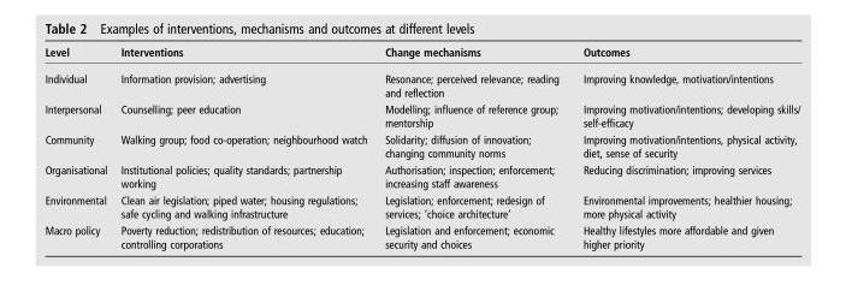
<table><thead><tr><td>Level</td><td>Interventions</td><td>Change mechanisms</td><td>Outcomes</td></tr></thead><tbody><tr><td>Individual</td><td>Information provision; advertising</td><td>Resonance; perceived relevance; reading and reflection</td><td>Improving knowledge, motivation/intentions</td></tr><tr><td>Interpersonal</td><td>Counselling; peer education</td><td>Modelling; influence of reference group; mentorship</td><td>Improving motivation/intentions; developing skills/ self-efficacy</td></tr><tr><td>Community</td><td>Walking group; food co-operation; neighbourhood watch</td><td>Solidarity; diffusion of innovation; changing community norms</td><td>Improving motivation/intentions, physical activity, diet, sense of security</td></tr><tr><td>Organisational</td><td>Institutional policies; quality standards; partnership working</td><td>Authorisation; inspection; enforcement; increasing staff awareness</td><td>Reducing discrimination; improving services</td></tr><tr><td>Environmental</td><td>Clean air legislation; piped water; housing regulations; safe cycling and walking infrastructure</td><td>Legislation; enforcement; redesign of services; ‘choice architecture’</td><td>Environmental improvements; healthier housing; more physical activity</td></tr><tr><td>Macro policy</td><td>Poverty reduction; redistribution of resources; education; controlling corporations</td><td>Legislation and enforcement; economic security and choices</td><td>Healthy lifestyles more affordable and given higher priority</td></tr></tbody></table>